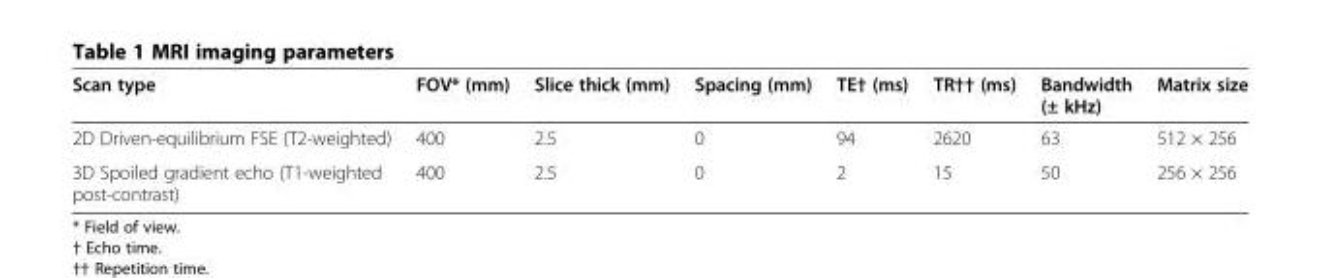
<table><thead><tr><td>Scan type</td><td>FOV* (mm)</td><td>Slice thick (mm)</td><td>Spacing (mm)</td><td>TE† (ms)</td><td>TR†† (ms)</td><td>Bandwidth (± kHz)</td><td>Matrix size</td></tr></thead><tbody><tr><td>2D Driven-equilibrium FSE (T2-weighted)</td><td>400</td><td>2.5</td><td>0</td><td>94</td><td>2620</td><td>63</td><td>512 × 256</td></tr><tr><td>3D Spoiled gradient echo (T1-weighted post-contrast)</td><td>400</td><td>2.5</td><td>0</td><td>2</td><td>15</td><td>50</td><td>256 × 256</td></tr></tbody></table>